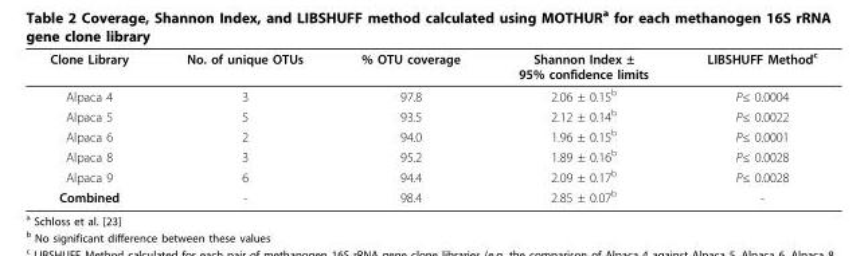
<table><thead><tr><td>Clone Library</td><td>No. of unique OTUs</td><td>% OTU coverage</td><td>Shannon Index ± 95% confidence limits</td><td>LIBSHUFF Method<sup>c</sup></td></tr></thead><tbody><tr><td>Alpaca 4</td><td>3</td><td>97.8</td><td>2.06 ± 0.15<sup>b</sup></td><td>P≤ 0.0004</td></tr><tr><td>Alpaca 5</td><td>5</td><td>93.5</td><td>2.12 ± 0.14<sup>b</sup></td><td>P≤ 0.0022</td></tr><tr><td>Alpaca 6</td><td>2</td><td>94.0</td><td>1.96 ± 0.15<sup>b</sup></td><td>P≤ 0.0001</td></tr><tr><td>Alpaca 8</td><td>3</td><td>95.2</td><td>1.89 ± 0.16<sup>b</sup></td><td>P≤ 0.0028</td></tr><tr><td>Alpaca 9</td><td>6</td><td>94.4</td><td>2.09 ± 0.17<sup>b</sup></td><td>P≤ 0.0028</td></tr><tr><td>Combined</td><td>-</td><td>98.4</td><td>2.85 ± 0.07<sup>b</sup></td><td>-</td></tr></tbody></table>